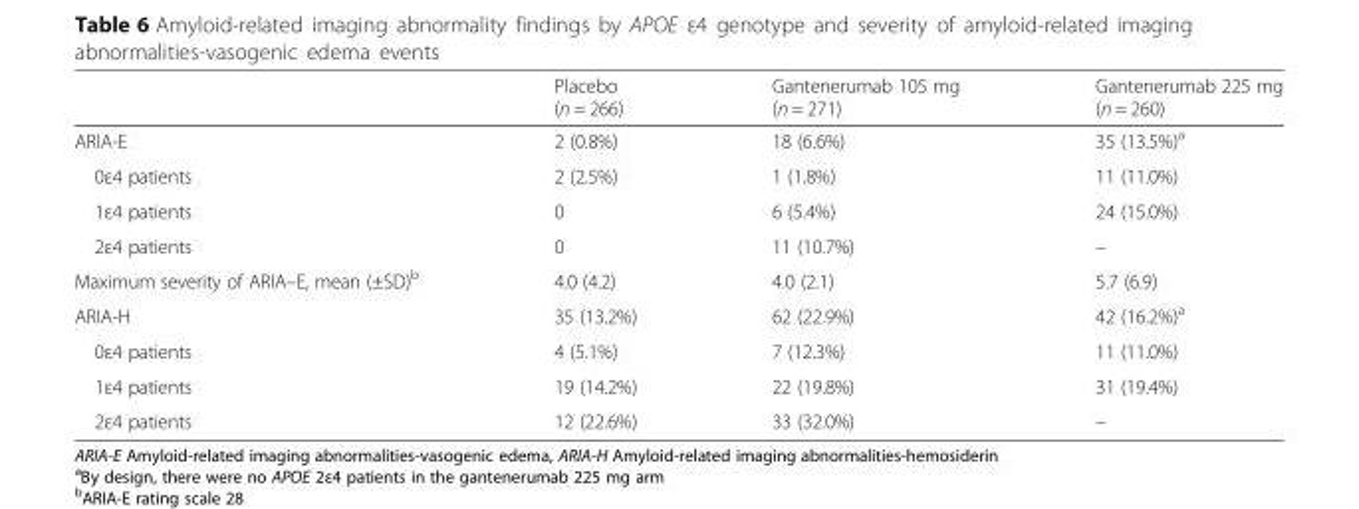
<table><thead><tr><td></td><td>Placebo (n = 266)</td><td>Gantenerumab 105 mg (n = 271)</td><td>Gantenerumab 225 mg (n = 260)</td></tr></thead><tbody><tr><td>ARIA-E</td><td>2 (0.8%)</td><td>18 (6.6%)</td><td>35 (13.5%)<sup>a</sup></td></tr><tr><td>0ε4 patients</td><td>2 (2.5%)</td><td>1 (1.8%)</td><td>11 (11.0%)</td></tr><tr><td>1ε4 patients</td><td>0</td><td>6 (5.4%)</td><td>24 (15.0%)</td></tr><tr><td>2ε4 patients</td><td>0</td><td>11 (10.7%)</td><td>–</td></tr><tr><td>Maximum severity of ARIA–E, mean (±SD)<sup>b</sup></td><td>4.0 (4.2)</td><td>4.0 (2.1)</td><td>5.7 (6.9)</td></tr><tr><td>ARIA-H</td><td>35 (13.2%)</td><td>62 (22.9%)</td><td>42 (16.2%)<sup>a</sup></td></tr><tr><td>0ε4 patients</td><td>4 (5.1%)</td><td>7 (12.3%)</td><td>11 (11.0%)</td></tr><tr><td>1ε4 patients</td><td>19 (14.2%)</td><td>22 (19.8%)</td><td>31 (19.4%)</td></tr><tr><td>2ε4 patients</td><td>12 (22.6%)</td><td>33 (32.0%)</td><td>–</td></tr></tbody></table>